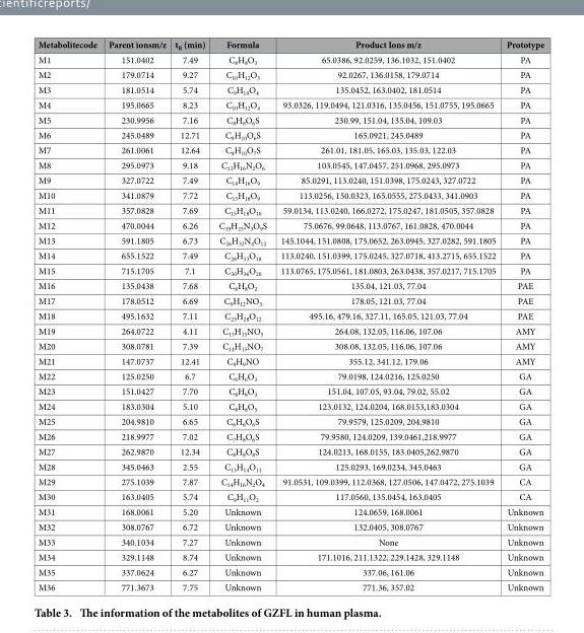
<table><thead><tr><td>Metabolitecode</td><td>Parent ionsm/z</td><td>t<sub>R</sub> (min)</td><td>Formula</td><td>Product Ions m/z</td><td>Prototype</td></tr></thead><tbody><tr><td>M1</td><td>151.0402</td><td>7.49</td><td>C<sub>8</sub>H<sub>8</sub>O<sub>3</sub></td><td>65.0386, 92.0259, 136.1032, 151.0402</td><td>PA</td></tr><tr><td>M2</td><td>179.0714</td><td>9.27</td><td>C<sub>10</sub>H<sub>12</sub>O<sub>3</sub></td><td>92.0267, 136.0158, 179.0714</td><td>PA</td></tr><tr><td>M3</td><td>181.0514</td><td>5.74</td><td>C<sub>9</sub>H<sub>10</sub>O<sub>4</sub></td><td>135.0452, 163.0402, 181.0514</td><td>PA</td></tr><tr><td>M4</td><td>195.0665</td><td>8.23</td><td>C<sub>10</sub>H<sub>12</sub>O<sub>4</sub></td><td>93.0326, 119.0494, 121.0316, 135.0456, 151.0755, 195.0665</td><td>PA</td></tr><tr><td>M5</td><td>230.9956</td><td>7.16</td><td>C<sub>8</sub>H<sub>8</sub>O<sub>6</sub>S</td><td>230.99, 151.04, 135.04, 109.03</td><td>PA</td></tr><tr><td>M6</td><td>245.0489</td><td>12.71</td><td>C<sub>9</sub>H<sub>10</sub>O<sub>6</sub>S</td><td>165.0921, 245.0489</td><td>PA</td></tr><tr><td>M7</td><td>261.0061</td><td>12.64</td><td>C<sub>9</sub>H<sub>10</sub>O<sub>7</sub>S</td><td>261.01, 181.05, 165.03, 135.03, 122.03</td><td>PA</td></tr><tr><td>M8</td><td>295.0973</td><td>9.18</td><td>C<sub>13</sub>H<sub>16</sub>N<sub>2</sub>O<sub>6</sub></td><td>103.0545, 147.0457, 251.0968, 295.0973</td><td>PA</td></tr><tr><td>M9</td><td>327.0722</td><td>7.49</td><td>C<sub>14</sub>H<sub>16</sub>O<sub>9</sub></td><td>85.0291, 113.0240, 151.0398, 175.0243, 327.0722</td><td>PA</td></tr><tr><td>M10</td><td>341.0879</td><td>7.72</td><td>C<sub>15</sub>H<sub>18</sub>O<sub>9</sub></td><td>113.0256, 150.0323, 165.0555, 275.0433, 341.0903</td><td>PA</td></tr><tr><td>M11</td><td>357.0828</td><td>7.69</td><td>C<sub>15</sub>H<sub>18</sub>O<sub>10</sub></td><td>59.0134, 113.0240, 166.0272, 175.0247, 181.0505, 357.0828</td><td>PA</td></tr><tr><td>M12</td><td>470.0044</td><td>6.26</td><td>C<sub>19</sub>H<sub>25</sub>N<sub>3</sub>O<sub>9</sub>S</td><td>75.0676, 99.0648, 113.0767, 161.0828, 470.0044</td><td>PA</td></tr><tr><td>M13</td><td>591.1805</td><td>6.73</td><td>C<sub>26</sub>H<sub>32</sub>N<sub>4</sub>O<sub>12</sub></td><td>145.1044, 151.0808, 175.0652, 263.0945, 327.0282, 591.1805</td><td>PA</td></tr><tr><td>M14</td><td>655.1522</td><td>7.49</td><td>C<sub>28</sub>H<sub>33</sub>O<sub>18</sub></td><td>113.0240, 151.0399, 175.0245, 327.0718, 413.2715, 655.1522</td><td>PA</td></tr><tr><td>M15</td><td>715.1705</td><td>7.1</td><td>C<sub>30</sub>H<sub>36</sub>O<sub>20</sub></td><td>113.0765, 175.0561, 181.0803, 263.0438, 357.0217, 715.1705</td><td>PA</td></tr><tr><td>M16</td><td>135.0438</td><td>7.68</td><td>C<sub>8</sub>H<sub>8</sub>O<sub>2</sub></td><td>135.04, 121.03, 77.04</td><td>PAE</td></tr><tr><td>M17</td><td>178.0512</td><td>6.69</td><td>C<sub>9</sub>H<sub>12</sub>NO<sub>3</sub></td><td>178.05, 121.03, 77.04</td><td>PAE</td></tr><tr><td>M18</td><td>495.1632</td><td>7.11</td><td>C<sub>23</sub>H<sub>28</sub>O<sub>12</sub></td><td>495.16, 479.16, 327.11, 165.05, 121.03, 77.04</td><td>PAE</td></tr><tr><td>M19</td><td>264.0722</td><td>4.11</td><td>C<sub>13</sub>H<sub>15</sub>NO<sub>5</sub></td><td>264.08, 132.05, 116.06, 107.06</td><td>AMY</td></tr><tr><td>M20</td><td>308.0781</td><td>7.39</td><td>C<sub>14</sub>H<sub>15</sub>NO<sub>7</sub></td><td>308.08, 132.05, 116.06, 107.06</td><td>AMY</td></tr><tr><td>M21</td><td>147.0737</td><td>12.41</td><td>C<sub>9</sub>H<sub>9</sub>NO</td><td>355.12, 341.12, 179.06</td><td>AMY</td></tr><tr><td>M22</td><td>125.0250</td><td>6.7</td><td>C<sub>6</sub>H<sub>6</sub>O<sub>3</sub></td><td>79.0198, 124.0216, 125.0250</td><td>GA</td></tr><tr><td>M23</td><td>151.0427</td><td>7.70</td><td>C<sub>8</sub>H<sub>8</sub>O<sub>3</sub></td><td>151.04, 107.05, 93.04, 79.02, 55.02</td><td>GA</td></tr><tr><td>M24</td><td>183.0304</td><td>5.10</td><td>C<sub>8</sub>H<sub>8</sub>O<sub>5</sub></td><td>123.0132, 124.0204, 168.0153,183.0304</td><td>GA</td></tr><tr><td>M25</td><td>204.9810</td><td>6.65</td><td>C<sub>6</sub>H<sub>6</sub>O<sub>6</sub>S</td><td>79.9579, 125.0209, 204.9810</td><td>GA</td></tr><tr><td>M26</td><td>218.9977</td><td>7.02</td><td>C<sub>7</sub>H<sub>8</sub>O<sub>6</sub>S</td><td>79.9580, 124.0209, 139.0461,218.9977</td><td>GA</td></tr><tr><td>M27</td><td>262.9870</td><td>12.34</td><td>C<sub>8</sub>H<sub>8</sub>O<sub>8</sub>S</td><td>124.0213, 168.0155, 183.0405,262.9870</td><td>GA</td></tr><tr><td>M28</td><td>345.0463</td><td>2.55</td><td>C<sub>13</sub>H<sub>14</sub>O<sub>11</sub></td><td>125.0293, 169.0234, 345.0463</td><td>GA</td></tr><tr><td>M29</td><td>275.1039</td><td>7.87</td><td>C<sub>14</sub>H<sub>16</sub>N<sub>2</sub>O<sub>4</sub></td><td>91.0531, 109.0399, 112.0368, 127.0506, 147.0472, 275.1039</td><td>CA</td></tr><tr><td>M30</td><td>163.0405</td><td>5.74</td><td>C<sub>9</sub>H<sub>11</sub>O<sub>2</sub></td><td>117.0560, 135.0454, 163.0405</td><td>CA</td></tr><tr><td>M31</td><td>168.0061</td><td>5.20</td><td>Unknown</td><td>124.0659, 168.0061</td><td>Unknown</td></tr><tr><td>M32</td><td>308.0767</td><td>6.72</td><td>Unknown</td><td>132.0405, 308.0767</td><td>Unknown</td></tr><tr><td>M33</td><td>340.1034</td><td>7.27</td><td>Unknown</td><td>None</td><td>Unknown</td></tr><tr><td>M34</td><td>329.1148</td><td>8.74</td><td>Unknown</td><td>171.1016, 211.1322, 229.1428, 329.1148</td><td>Unknown</td></tr><tr><td>M35</td><td>337.0624</td><td>6.27</td><td>Unknown</td><td>337.06, 161.06</td><td>Unknown</td></tr><tr><td>M36</td><td>771.3673</td><td>7.75</td><td>Unknown</td><td>771.36, 357.02</td><td>Unknown</td></tr></tbody></table>